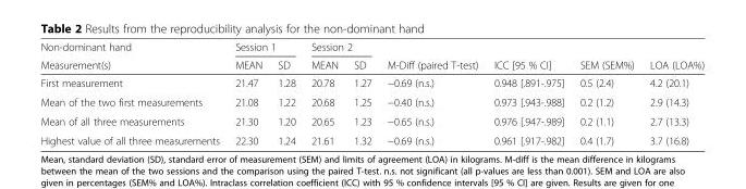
<table><thead><tr><td rowspan="2">Non-dominant hand Measurement(s)</td><td colspan="2">Session 1</td><td colspan="2">Session 2</td><td rowspan="2">M-Diff (paired T-test)</td><td rowspan="2">ICC [95 % CI]</td><td rowspan="2">SEM (SEM%)</td><td rowspan="2">LOA (LOA%)</td></tr><tr><td>MEAN</td><td>SD</td><td>MEAN</td><td>SD</td></tr></thead><tbody><tr><td>First measurement</td><td>21.47</td><td>1.28</td><td>20.78</td><td>1.27</td><td>−0.69 (n.s.)</td><td>0.948 [.891-.975]</td><td>0.5 (2.4)</td><td>4.2 (20.1)</td></tr><tr><td>Mean of the two first measurements</td><td>21.08</td><td>1.22</td><td>20.68</td><td>1.25</td><td>−0.40 (n.s.)</td><td>0.973 [.943-.988]</td><td>0.2 (1.2)</td><td>2.9 (14.3)</td></tr><tr><td>Mean of all three measurements</td><td>21.30</td><td>1.20</td><td>20.65</td><td>1.23</td><td>−0.65 (n.s.)</td><td>0.976 [.947-.989]</td><td>0.2 (1.1)</td><td>2.7 (13.3)</td></tr><tr><td>Highest value of all three measurements</td><td>22.30</td><td>1.24</td><td>21.61</td><td>1.32</td><td>−0.69 (n.s.)</td><td>0.961 [.917-.982]</td><td>0.4 (1.7)</td><td>3.7 (16.8)</td></tr></tbody></table>